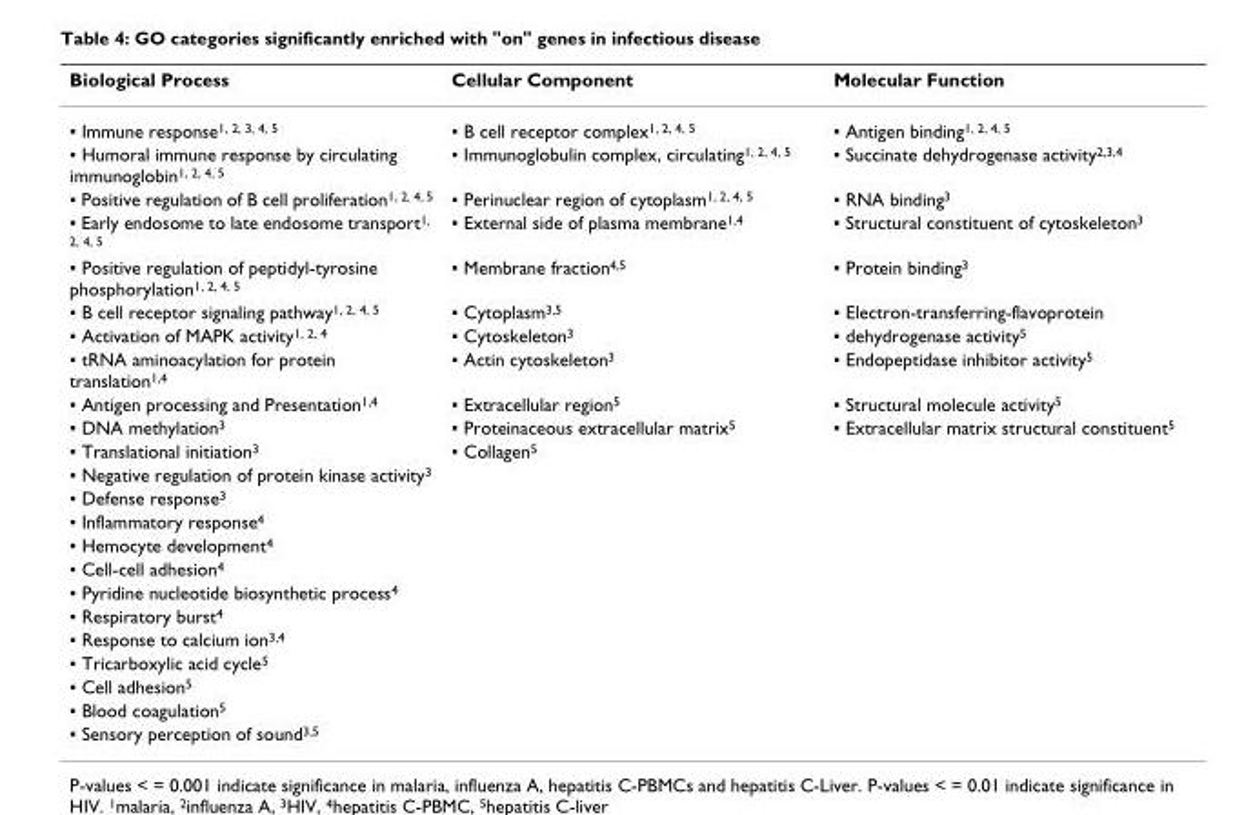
<table><thead><tr><td>Biological Process</td><td>Cellular Component</td><td>Molecular Function</td></tr></thead><tbody><tr><td>▪ Immune response<sup>1, 2, 3, 4, 5</sup></td><td>▪ B cell receptor complex<sup>1, 2, 4, 5</sup></td><td>▪ Antigen binding<sup>1, 2, 4, 5</sup></td></tr><tr><td>▪ Humoral immune response by circulating immunoglobin<sup>1, 2, 4, 5</sup></td><td>▪ Immunoglobulin complex, circulating<sup>1, 2, 4, 5</sup></td><td>▪ Succinate dehydrogenase activity<sup>2,3,4</sup></td></tr><tr><td>▪ Positive regulation of B cell proliferation<sup>1, 2, 4, 5</sup></td><td>▪ Perinuclear region of cytoplasm<sup>1, 2, 4, 5</sup></td><td>▪ RNA binding<sup>3</sup></td></tr><tr><td>▪ Early endosome to late endosome transport<sup>1, 2, 4, 5</sup></td><td>▪ External side of plasma membrane<sup>1,4</sup></td><td>▪ Structural constituent of cytoskeleton<sup>3</sup></td></tr><tr><td>▪ Positive regulation of peptidyl-tyrosine phosphorylation<sup>1, 2, 4, 5</sup></td><td>▪ Membrane fraction<sup>4,5</sup></td><td>▪ Protein binding<sup>3</sup></td></tr><tr><td>▪ B cell receptor signaling pathway<sup>1, 2, 4, 5</sup></td><td>▪ Cytoplasm<sup>3,5</sup></td><td>▪ Electron-transferring-flavoprotein</td></tr><tr><td>▪ Activation of MAPK activity<sup>1, 2, 4</sup></td><td>▪ Cytoskeleton<sup>3</sup></td><td>▪ dehydrogenase activity<sup>5</sup></td></tr><tr><td>▪ tRNA aminoacylation for protein translation<sup>1,4</sup></td><td>▪ Actin cytoskeleton<sup>3</sup></td><td>▪ Endopeptidase inhibitor activity<sup>5</sup></td></tr><tr><td>▪ Antigen processing and Presentation<sup>1,4</sup></td><td>▪ Extracellular region<sup>5</sup></td><td>▪ Structural molecule activity<sup>5</sup></td></tr><tr><td>▪ DNA methylation<sup>3</sup></td><td>▪ Proteinaceous extracellular matrix<sup>5</sup></td><td>▪ Extracellular matrix structural constituent<sup>5</sup></td></tr><tr><td>▪ Translational initiation<sup>3</sup></td><td>▪ Collagen<sup>5</sup></td><td></td></tr><tr><td colspan="3">▪ Negative regulation of protein kinase activity<sup>3</sup></td></tr><tr><td colspan="3">▪ Defense response<sup>3</sup></td></tr><tr><td colspan="3">▪ Inflammatory response<sup>4</sup></td></tr><tr><td colspan="3">▪ Hemocyte development<sup>4</sup></td></tr><tr><td colspan="3">▪ Cell-cell adhesion<sup>4</sup></td></tr><tr><td colspan="3">▪ Pyridine nucleotide biosynthetic process<sup>4</sup></td></tr><tr><td colspan="3">▪ Respiratory burst<sup>4</sup></td></tr><tr><td colspan="3">▪ Response to calcium ion<sup>3,4</sup></td></tr><tr><td colspan="3">▪ Tricarboxylic acid cycle<sup>5</sup></td></tr><tr><td colspan="3">▪ Cell adhesion<sup>5</sup></td></tr><tr><td colspan="3">▪ Blood coagulation<sup>5</sup></td></tr><tr><td>▪ Sensory perception of sound<sup>3,5</sup></td><td></td><td></td></tr></tbody></table>